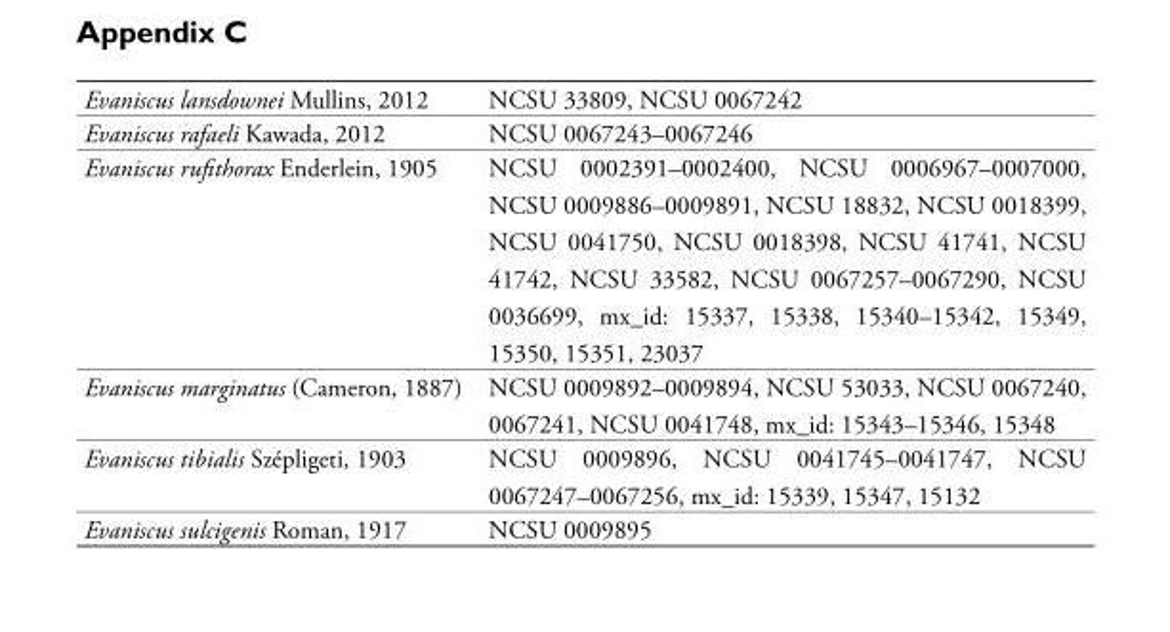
<table><tbody><tr><td>Evaniscus lansdownei Mullins, 2012</td><td>NCSU 33809, NCSU 0067242</td></tr><tr><td>Evaniscus rafaeli Kawada, 2012</td><td>NCSU 0067243–0067246</td></tr><tr><td>Evaniscus rufithorax Enderlein, 1905</td><td>NCSU 0002391–0002400, NCSU 0006967–0007000, NCSU 0009886–0009891, NCSU 18832, NCSU 0018399, NCSU 0041750, NCSU 0018398, NCSU 41741, NCSU 41742, NCSU 33582, NCSU 0067257–0067290, NCSU 0036699, mx_id: 15337, 15338, 15340–15342, 15349, 15350, 15351, 23037</td></tr><tr><td>Evaniscus marginatus (Cameron, 1887)</td><td>NCSU 0009892–0009894, NCSU 53033, NCSU 0067240, 0067241, NCSU 0041748, mx_id: 15343–15346, 15348</td></tr><tr><td>Evaniscus tibialis Szépligeti, 1903</td><td>NCSU 0009896, NCSU 0041745–0041747, NCSU 0067247–0067256, mx_id: 15339, 15347, 15132</td></tr><tr><td>Evaniscus sulcigenis Roman, 1917</td><td>NCSU 0009895</td></tr></tbody></table>